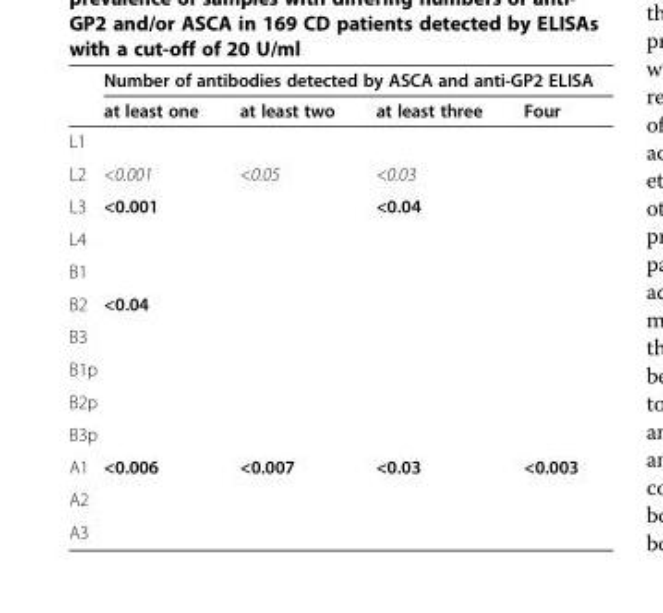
<table><thead><tr><td rowspan="2"></td><td colspan="4">Number of antibodies detected by ASCA and anti-GP2 ELISA</td></tr><tr><td>at least one</td><td>at least two</td><td>at least three</td><td>Four</td></tr></thead><tbody><tr><td colspan="5">L1</td></tr><tr><td>L2</td><td>&lt;0.001</td><td>&lt;0.05</td><td>&lt;0.03</td><td></td></tr><tr><td>L3</td><td>&lt;0.001</td><td></td><td>&lt;0.04</td><td></td></tr><tr><td colspan="5">L4</td></tr><tr><td colspan="5">B1</td></tr><tr><td>B2</td><td>&lt;0.04</td><td></td><td></td><td></td></tr><tr><td colspan="5">B3</td></tr><tr><td colspan="5">B1p</td></tr><tr><td colspan="5">B2p</td></tr><tr><td colspan="5">B3p</td></tr><tr><td>A1</td><td>&lt;0.006</td><td>&lt;0.007</td><td>&lt;0.03</td><td>&lt;0.003</td></tr><tr><td colspan="5">A2</td></tr><tr><td>A3</td><td></td><td></td><td></td><td></td></tr></tbody></table>